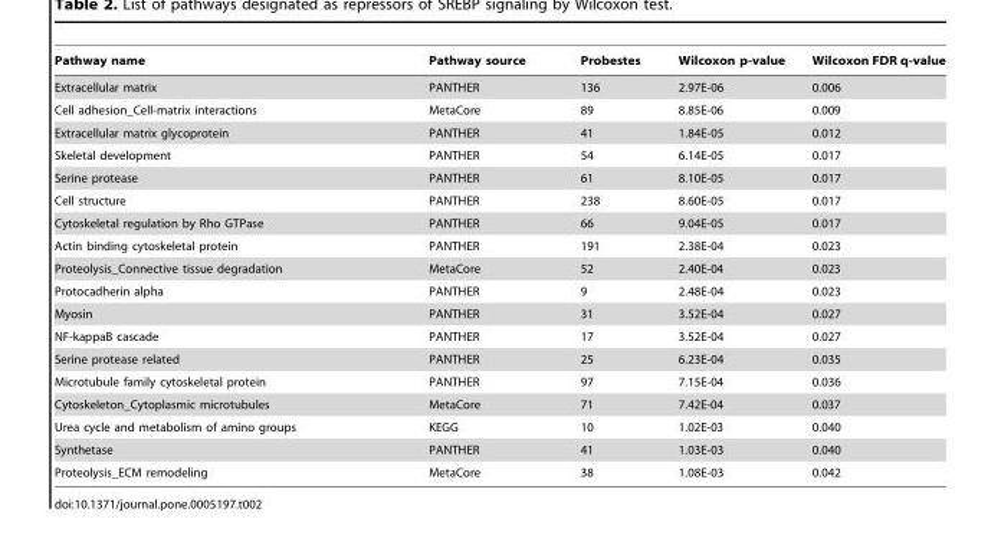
<table><thead><tr><td>Pathway name</td><td>Pathway source</td><td>Probestes</td><td>Wilcoxon p-value</td><td>Wilcoxon FDR q-value</td></tr></thead><tbody><tr><td>Extracellular matrix</td><td>PANTHER</td><td>136</td><td>2.97E-06</td><td>0.006</td></tr><tr><td>Cell adhesion_Cell-matrix interactions</td><td>MetaCore</td><td>89</td><td>8.85E-06</td><td>0.009</td></tr><tr><td>Extracellular matrix glycoprotein</td><td>PANTHER</td><td>41</td><td>1.84E-05</td><td>0.012</td></tr><tr><td>Skeletal development</td><td>PANTHER</td><td>54</td><td>6.14E-05</td><td>0.017</td></tr><tr><td>Serine protease</td><td>PANTHER</td><td>61</td><td>8.10E-05</td><td>0.017</td></tr><tr><td>Cell structure</td><td>PANTHER</td><td>238</td><td>8.60E-05</td><td>0.017</td></tr><tr><td>Cytoskeletal regulation by Rho GTPase</td><td>PANTHER</td><td>66</td><td>9.04E-05</td><td>0.017</td></tr><tr><td>Actin binding cytoskeletal protein</td><td>PANTHER</td><td>191</td><td>2.38E-04</td><td>0.023</td></tr><tr><td>Proteolysis_Connective tissue degradation</td><td>MetaCore</td><td>52</td><td>2.40E-04</td><td>0.023</td></tr><tr><td>Protocadherin alpha</td><td>PANTHER</td><td>9</td><td>2.48E-04</td><td>0.023</td></tr><tr><td>Myosin</td><td>PANTHER</td><td>31</td><td>3.52E-04</td><td>0.027</td></tr><tr><td>NF-kappaB cascade</td><td>PANTHER</td><td>17</td><td>3.52E-04</td><td>0.027</td></tr><tr><td>Serine protease related</td><td>PANTHER</td><td>25</td><td>6.23E-04</td><td>0.035</td></tr><tr><td>Microtubule family cytoskeletal protein</td><td>PANTHER</td><td>97</td><td>7.15E-04</td><td>0.036</td></tr><tr><td>Cytoskeleton_Cytoplasmic microtubules</td><td>MetaCore</td><td>71</td><td>7.42E-04</td><td>0.037</td></tr><tr><td>Urea cycle and metabolism of amino groups</td><td>KEGG</td><td>10</td><td>1.02E-03</td><td>0.040</td></tr><tr><td>Synthetase</td><td>PANTHER</td><td>41</td><td>1.03E-03</td><td>0.040</td></tr><tr><td>Proteolysis_ECM remodeling</td><td>MetaCore</td><td>38</td><td>1.08E-03</td><td>0.042</td></tr></tbody></table>